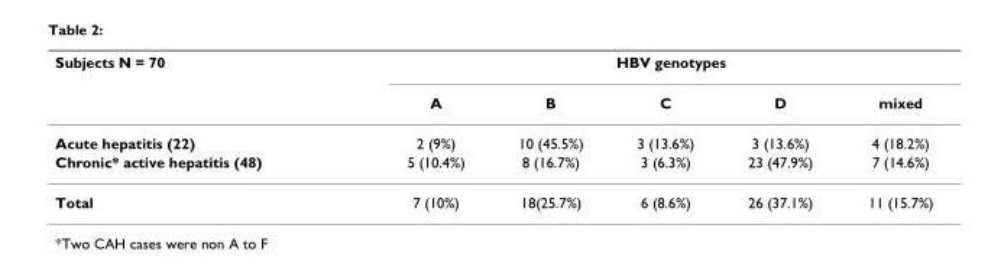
<table><thead><tr><td rowspan="2">Subjects N = 70</td><td colspan="5">HBV genotypes</td></tr><tr><td>A</td><td>B</td><td>C</td><td>D</td><td>mixed</td></tr></thead><tbody><tr><td>Acute hepatitis (22)</td><td>2 (9%)</td><td>10 (45.5%)</td><td>3 (13.6%)</td><td>3 (13.6%)</td><td>4 (18.2%)</td></tr><tr><td>Chronic* active hepatitis (48)</td><td>5 (10.4%)</td><td>8 (16.7%)</td><td>3 (6.3%)</td><td>23 (47.9%)</td><td>7 (14.6%)</td></tr><tr><td>Total</td><td>7 (10%)</td><td>18(25.7%)</td><td>6 (8.6%)</td><td>26 (37.1%)</td><td>11 (15.7%)</td></tr></tbody></table>